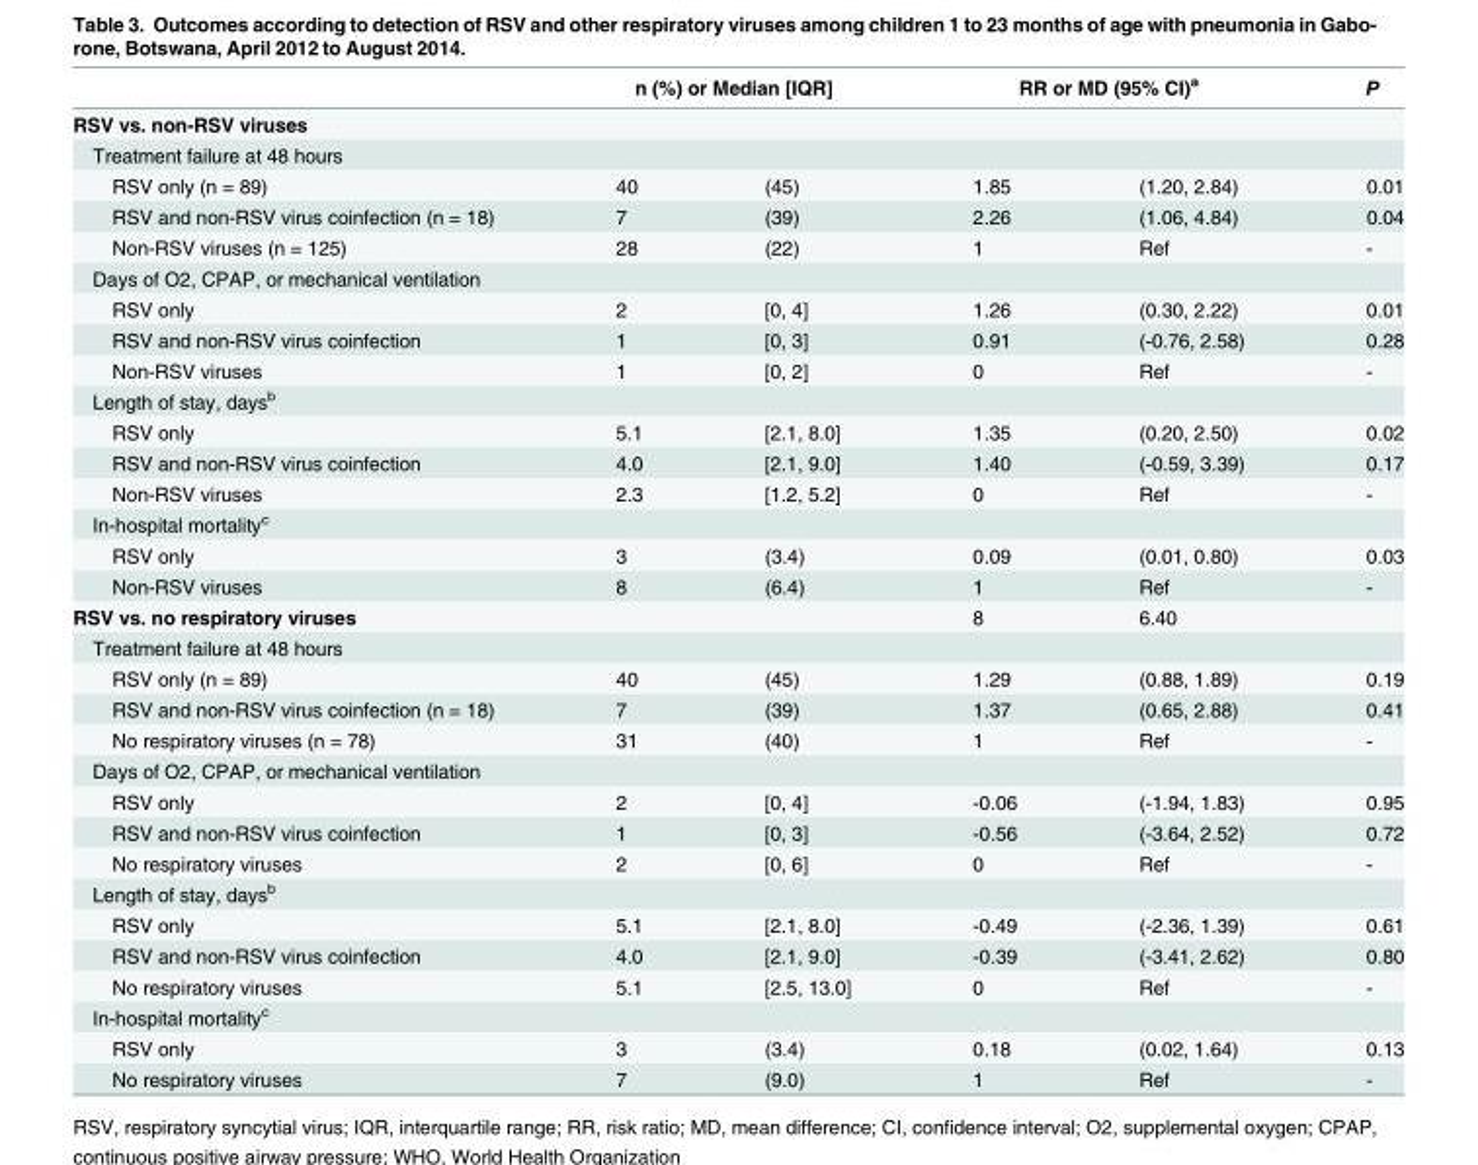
<table><thead><tr><td rowspan="2">RSV vs. non-RSV viruses</td><td colspan="2">n (%) or Median [IQR]</td><td colspan="2">RR or MD (95% CI)<sup>a</sup></td><td rowspan="2">P</td></tr><tr><td></td><td></td><td></td><td></td></tr></thead><tbody><tr><td colspan="6">Treatment failure at 48 hours</td></tr><tr><td>RSV only (n = 89)</td><td>40</td><td>(45)</td><td>1.85</td><td>(1.20, 2.84)</td><td>0.01</td></tr><tr><td>RSV and non-RSV virus coinfection (n = 18)</td><td>7</td><td>(39)</td><td>2.26</td><td>(1.06, 4.84)</td><td>0.04</td></tr><tr><td>Non-RSV viruses (n = 125)</td><td>28</td><td>(22)</td><td>1</td><td>Ref</td><td>-</td></tr><tr><td colspan="6">Days of O2, CPAP, or mechanical ventilation</td></tr><tr><td>RSV only</td><td>2</td><td>[0, 4]</td><td>1.26</td><td>(0.30, 2.22)</td><td>0.01</td></tr><tr><td>RSV and non-RSV virus coinfection</td><td>1</td><td>[0, 3]</td><td>0.91</td><td>(-0.76, 2.58)</td><td>0.28</td></tr><tr><td>Non-RSV viruses</td><td>1</td><td>[0, 2]</td><td>0</td><td>Ref</td><td>-</td></tr><tr><td colspan="6">Length of stay, days<sup>b</sup></td></tr><tr><td>RSV only</td><td>5.1</td><td>[2.1, 8.0]</td><td>1.35</td><td>(0.20, 2.50)</td><td>0.02</td></tr><tr><td>RSV and non-RSV virus coinfection</td><td>4.0</td><td>[2.1, 9.0]</td><td>1.40</td><td>(-0.59, 3.39)</td><td>0.17</td></tr><tr><td>Non-RSV viruses</td><td>2.3</td><td>[1.2, 5.2]</td><td>0</td><td>Ref</td><td>-</td></tr><tr><td colspan="6">In-hospital mortality<sup>c</sup></td></tr><tr><td>RSV only</td><td>3</td><td>(3.4)</td><td>0.09</td><td>(0.01, 0.80)</td><td>0.03</td></tr><tr><td>Non-RSV viruses</td><td>8</td><td>(6.4)</td><td>1</td><td>Ref</td><td>-</td></tr><tr><td>RSV vs. no respiratory viruses</td><td></td><td></td><td>8</td><td>6.40</td><td></td></tr><tr><td colspan="6">Treatment failure at 48 hours</td></tr><tr><td>RSV only (n = 89)</td><td>40</td><td>(45)</td><td>1.29</td><td>(0.88, 1.89)</td><td>0.19</td></tr><tr><td>RSV and non-RSV virus coinfection (n = 18)</td><td>7</td><td>(39)</td><td>1.37</td><td>(0.65, 2.88)</td><td>0.41</td></tr><tr><td>No respiratory viruses (n = 78)</td><td>31</td><td>(40)</td><td>1</td><td>Ref</td><td>-</td></tr><tr><td colspan="6">Days of O2, CPAP, or mechanical ventilation</td></tr><tr><td>RSV only</td><td>2</td><td>[0, 4]</td><td>-0.06</td><td>(-1.94, 1.83)</td><td>0.95</td></tr><tr><td>RSV and non-RSV virus coinfection</td><td>1</td><td>[0, 3]</td><td>-0.56</td><td>(-3.64, 2.52)</td><td>0.72</td></tr><tr><td>No respiratory viruses</td><td>2</td><td>[0, 6]</td><td>0</td><td>Ref</td><td>-</td></tr><tr><td colspan="6">Length of stay, days<sup>b</sup></td></tr><tr><td>RSV only</td><td>5.1</td><td>[2.1, 8.0]</td><td>-0.49</td><td>(-2.36, 1.39)</td><td>0.61</td></tr><tr><td>RSV and non-RSV virus coinfection</td><td>4.0</td><td>[2.1, 9.0]</td><td>-0.39</td><td>(-3.41, 2.62)</td><td>0.80</td></tr><tr><td>No respiratory viruses</td><td>5.1</td><td>[2.5, 13.0]</td><td>0</td><td>Ref</td><td>-</td></tr><tr><td colspan="6">In-hospital mortality<sup>c</sup></td></tr><tr><td>RSV only</td><td>3</td><td>(3.4)</td><td>0.18</td><td>(0.02, 1.64)</td><td>0.13</td></tr><tr><td>No respiratory viruses</td><td>7</td><td>(9.0)</td><td>1</td><td>Ref</td><td>-</td></tr></tbody></table>